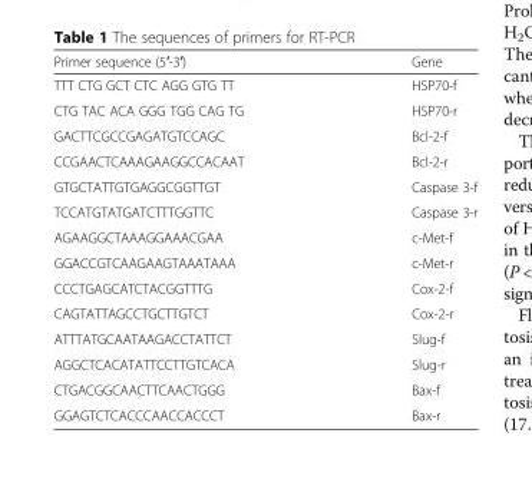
<table><thead><tr><td>Primer sequence (5′-3′)</td><td>Gene</td></tr></thead><tbody><tr><td>TTT CTG GCT CTC AGG GTG TT</td><td>HSP70-f</td></tr><tr><td>CTG TAC ACA GGG TGG CAG TG</td><td>HSP70-r</td></tr><tr><td>GACTTCGCCGAGATGTCCAGC</td><td>Bcl-2-f</td></tr><tr><td>CCGAACTCAAAGAAGGCCACAAT</td><td>Bcl-2-r</td></tr><tr><td>GTGCTATTGTGAGGCGGTTGT</td><td>Caspase 3-f</td></tr><tr><td>TCCATGTATGATCTTTGGTTC</td><td>Caspase 3-r</td></tr><tr><td>AGAAGGCTAAAGGAAACGAA</td><td>c-Met-f</td></tr><tr><td>GGACCGTCAAGAAGTAAATAAA</td><td>c-Met-r</td></tr><tr><td>CCCTGAGCATCTACGGTTTG</td><td>Cox-2-f</td></tr><tr><td>CAGTATTAGCCTGCTTGTCT</td><td>Cox-2-r</td></tr><tr><td>ATTTATGCAATAAGACCTATTCT</td><td>Slug-f</td></tr><tr><td>AGGCTCACATATTCCTTGTCACA</td><td>Slug-r</td></tr><tr><td>CTGACGGCAACTTCAACTGGG</td><td>Bax-f</td></tr><tr><td>GGAGTCTCACCCAACCACCCT</td><td>Bax-r</td></tr></tbody></table>